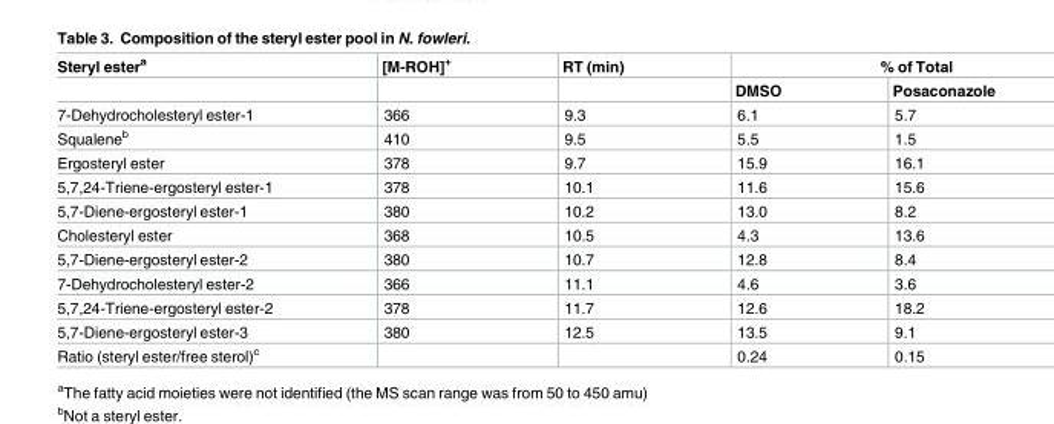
<table><thead><tr><td rowspan="2">Steryl ester<sup>a</sup></td><td rowspan="2">[M-ROH]<sup>+</sup></td><td rowspan="2">RT (min)</td><td colspan="2">% of Total</td></tr><tr><td>DMSO</td><td>Posaconazole</td></tr></thead><tbody><tr><td>7-Dehydrocholesteryl ester-1</td><td>366</td><td>9.3</td><td>6.1</td><td>5.7</td></tr><tr><td>Squalene<sup>b</sup></td><td>410</td><td>9.5</td><td>5.5</td><td>1.5</td></tr><tr><td>Ergosteryl ester</td><td>378</td><td>9.7</td><td>15.9</td><td>16.1</td></tr><tr><td>5,7,24-Triene-ergosteryl ester-1</td><td>378</td><td>10.1</td><td>11.6</td><td>15.6</td></tr><tr><td>5,7-Diene-ergosteryl ester-1</td><td>380</td><td>10.2</td><td>13.0</td><td>8.2</td></tr><tr><td>Cholesteryl ester</td><td>368</td><td>10.5</td><td>4.3</td><td>13.6</td></tr><tr><td>5,7-Diene-ergosteryl ester-2</td><td>380</td><td>10.7</td><td>12.8</td><td>8.4</td></tr><tr><td>7-Dehydrocholesteryl ester-2</td><td>366</td><td>11.1</td><td>4.6</td><td>3.6</td></tr><tr><td>5,7,24-Triene-ergosteryl ester-2</td><td>378</td><td>11.7</td><td>12.6</td><td>18.2</td></tr><tr><td>5,7-Diene-ergosteryl ester-3</td><td>380</td><td>12.5</td><td>13.5</td><td>9.1</td></tr><tr><td>Ratio (steryl ester/free sterol)<sup>c</sup></td><td></td><td></td><td>0.24</td><td>0.15</td></tr></tbody></table>